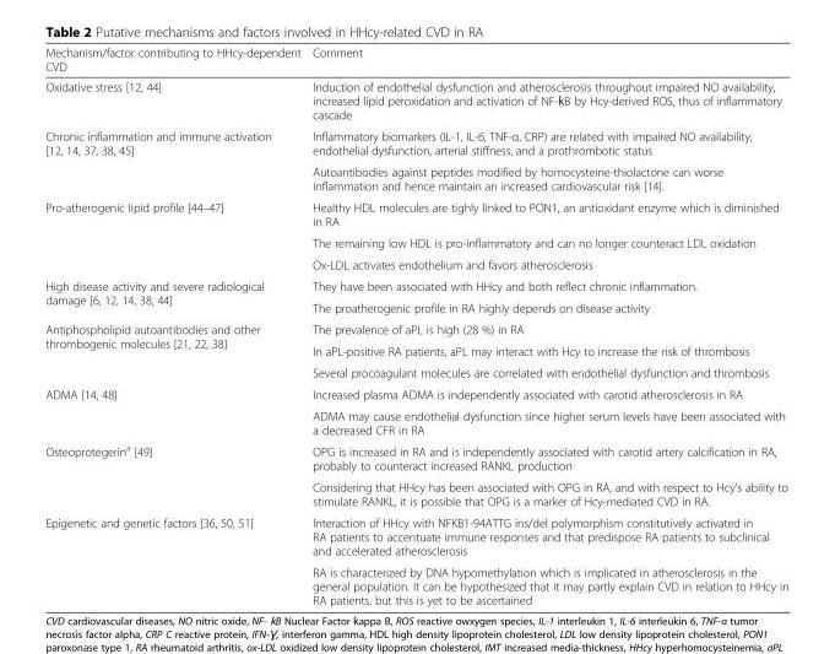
<table><thead><tr><td>Mechanism/factor contributing to HHcy-dependent CVD</td><td>Comment</td></tr></thead><tbody><tr><td>Oxidative stress [12, 44]</td><td>Induction of endothelial dysfunction and atherosclerosis throughout impaired NO availability, increased lipid peroxidation and activation of NF-ƙB by Hcy-derived ROS, thus of inflammatory cascade</td></tr><tr><td rowspan="2">Chronic inflammation and immune activation [12, 14, 37, 38, 45]</td><td>Inflammatory biomarkers (IL-1, IL-6, TNF-α, CRP) are related with impaired NO availability, endothelial dysfunction, arterial stiffness, and a prothrombotic status</td></tr><tr><td>Autoantibodies against peptides modified by homocysteine-thiolactone can worse inflammation and hence maintain an increased cardiovascular risk [14].</td></tr><tr><td rowspan="3">Pro-atherogenic lipid profile [44–47]</td><td>Healthy HDL molecules are tighly linked to PON1, an antioxidant enzyme which is diminished in RA</td></tr><tr><td>The remaining low HDL is pro-inflammatory and can no longer counteract LDL oxidation</td></tr><tr><td>Ox-LDL activates endothelium and favors atherosclerosis</td></tr><tr><td rowspan="2">High disease activity and severe radiological damage [6, 12, 14, 38, 44]</td><td>They have been associated with HHcy and both reflect chronic inflammation.</td></tr><tr><td>The proatherogenic profile in RA highly depends on disease activity</td></tr><tr><td rowspan="3">Antiphospholipid autoantibodies and other thrombogenic molecules [21, 22, 38]</td><td>The prevalence of aPL is high (28 %) in RA</td></tr><tr><td>In aPL-positive RA patients, aPL may interact with Hcy to increase the risk of thrombosis</td></tr><tr><td>Several procoagulant molecules are correlated with endothelial dysfunction and thrombosis</td></tr><tr><td rowspan="2">ADMA [14, 48]</td><td>Increased plasma ADMA is independently associated with carotid atherosclerosis in RA</td></tr><tr><td>ADMA may cause endothelial dysfunction since higher serum levels have been associated with a decreased CFR in RA</td></tr><tr><td rowspan="2">Osteoprotegerin<sup>a</sup> [49]</td><td>OPG is increased in RA and is independently associated with carotid artery calcification in RA, probably to counteract increased RANKL production</td></tr><tr><td>Considering that HHcy has been associated with OPG in RA, and with respect to Hcy’s ability to stimulate RANKL, it is possible that OPG is a marker of Hcy-mediated CVD in RA.</td></tr><tr><td rowspan="2">Epigenetic and genetic factors [36, 50, 51]</td><td>Interaction of HHcy with NFKB1-94ATTG ins/del polymorphism constitutively activated in RA patients to accentuate immune responses and that predispose RA patients to subclinical and accelerated atherosclerosis</td></tr><tr><td>RA is characterized by DNA hypomethylation which is implicated in atherosclerosis in the general population. It can be hypothesized that it may partly explain CVD in relation to HHcy in RA patients, but this is yet to be ascertained</td></tr></tbody></table>